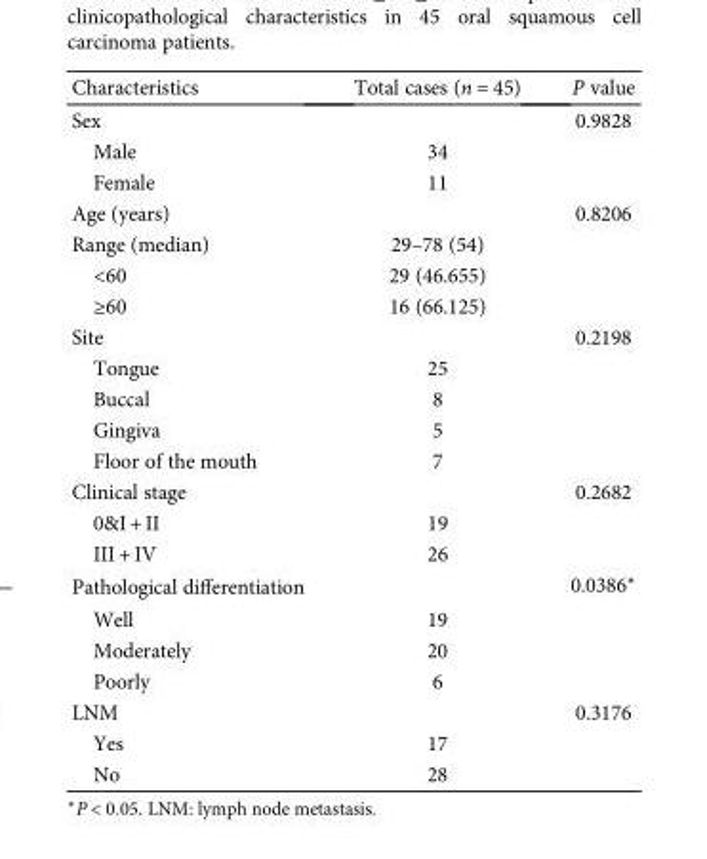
<table><thead><tr><td>Characteristics</td><td>Total cases (n = 45)</td><td>P value</td></tr></thead><tbody><tr><td>Sex</td><td></td><td>0.9828</td></tr><tr><td>Male</td><td>34</td><td></td></tr><tr><td>Female</td><td>11</td><td></td></tr><tr><td>Age (years)</td><td></td><td>0.8206</td></tr><tr><td>Range (median)</td><td>29–78 (54)</td><td></td></tr><tr><td>&lt;60</td><td>29 (46.655)</td><td></td></tr><tr><td>≥60</td><td>16 (66.125)</td><td></td></tr><tr><td>Site</td><td></td><td>0.2198</td></tr><tr><td>Tongue</td><td>25</td><td></td></tr><tr><td>Buccal</td><td>8</td><td></td></tr><tr><td>Gingiva</td><td>5</td><td></td></tr><tr><td>Floor of the mouth</td><td>7</td><td></td></tr><tr><td>Clinical stage</td><td></td><td>0.2682</td></tr><tr><td>0&amp;I + II</td><td>19</td><td></td></tr><tr><td>III + IV</td><td>26</td><td></td></tr><tr><td>Pathological differentiation</td><td></td><td>0.0386∗</td></tr><tr><td>Well</td><td>19</td><td></td></tr><tr><td>Moderately</td><td>20</td><td></td></tr><tr><td>Poorly</td><td>6</td><td></td></tr><tr><td>LNM</td><td></td><td>0.3176</td></tr><tr><td>Yes</td><td>17</td><td></td></tr><tr><td>No</td><td>28</td><td></td></tr></tbody></table>